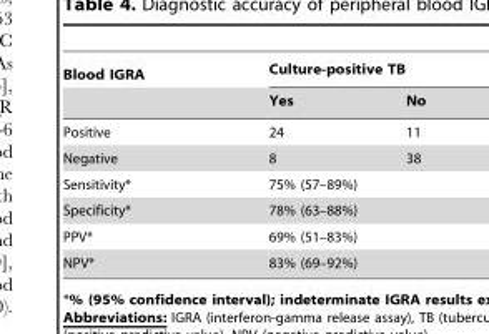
<table><thead><tr><td rowspan="2">Blood IGRA</td><td colspan="2">Culture-positive TB</td></tr><tr><td>Yes</td><td>No</td></tr></thead><tbody><tr><td>Positive</td><td>24</td><td>11</td></tr><tr><td>Negative</td><td>8</td><td>38</td></tr><tr><td>Sensitivity*</td><td colspan="2">75% (57–89%)</td></tr><tr><td>Specificity*</td><td colspan="2">78% (63–88%)</td></tr><tr><td>PPV*</td><td colspan="2">69% (51–83%)</td></tr><tr><td>NPV*</td><td colspan="2">83% (69–92%)</td></tr></tbody></table>